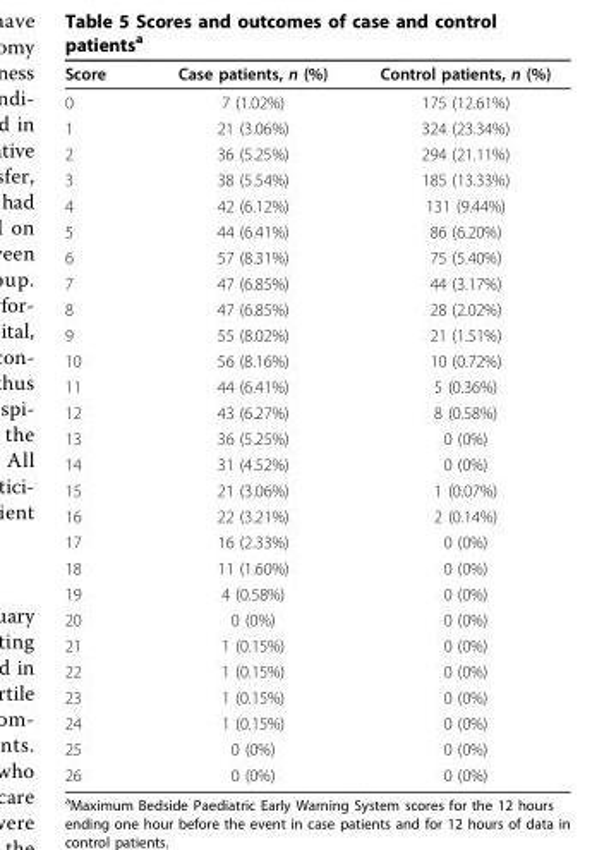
<table><thead><tr><td>Score</td><td>Case patients, n (%)</td><td>Control patients, n (%)</td></tr></thead><tbody><tr><td>0</td><td>7 (1.02%)</td><td>175 (12.61%)</td></tr><tr><td>1</td><td>21 (3.06%)</td><td>324 (23.34%)</td></tr><tr><td>2</td><td>36 (5.25%)</td><td>294 (21.11%)</td></tr><tr><td>3</td><td>38 (5.54%)</td><td>185 (13.33%)</td></tr><tr><td>4</td><td>42 (6.12%)</td><td>131 (9.44%)</td></tr><tr><td>5</td><td>44 (6.41%)</td><td>86 (6.20%)</td></tr><tr><td>6</td><td>57 (8.31%)</td><td>75 (5.40%)</td></tr><tr><td>7</td><td>47 (6.85%)</td><td>44 (3.17%)</td></tr><tr><td>8</td><td>47 (6.85%)</td><td>28 (2.02%)</td></tr><tr><td>9</td><td>55 (8.02%)</td><td>21 (1.51%)</td></tr><tr><td>10</td><td>56 (8.16%)</td><td>10 (0.72%)</td></tr><tr><td>11</td><td>44 (6.41%)</td><td>5 (0.36%)</td></tr><tr><td>12</td><td>43 (6.27%)</td><td>8 (0.58%)</td></tr><tr><td>13</td><td>36 (5.25%)</td><td>0 (0%)</td></tr><tr><td>14</td><td>31 (4.52%)</td><td>0 (0%)</td></tr><tr><td>15</td><td>21 (3.06%)</td><td>1 (0.07%)</td></tr><tr><td>16</td><td>22 (3.21%)</td><td>2 (0.14%)</td></tr><tr><td>17</td><td>16 (2.33%)</td><td>0 (0%)</td></tr><tr><td>18</td><td>11 (1.60%)</td><td>0 (0%)</td></tr><tr><td>19</td><td>4 (0.58%)</td><td>0 (0%)</td></tr><tr><td>20</td><td>0 (0%)</td><td>0 (0%)</td></tr><tr><td>21</td><td>1 (0.15%)</td><td>0 (0%)</td></tr><tr><td>22</td><td>1 (0.15%)</td><td>0 (0%)</td></tr><tr><td>23</td><td>1 (0.15%)</td><td>0 (0%)</td></tr><tr><td>24</td><td>1 (0.15%)</td><td>0 (0%)</td></tr><tr><td>25</td><td>0 (0%)</td><td>0 (0%)</td></tr><tr><td>26</td><td>0 (0%)</td><td>0 (0%)</td></tr></tbody></table>